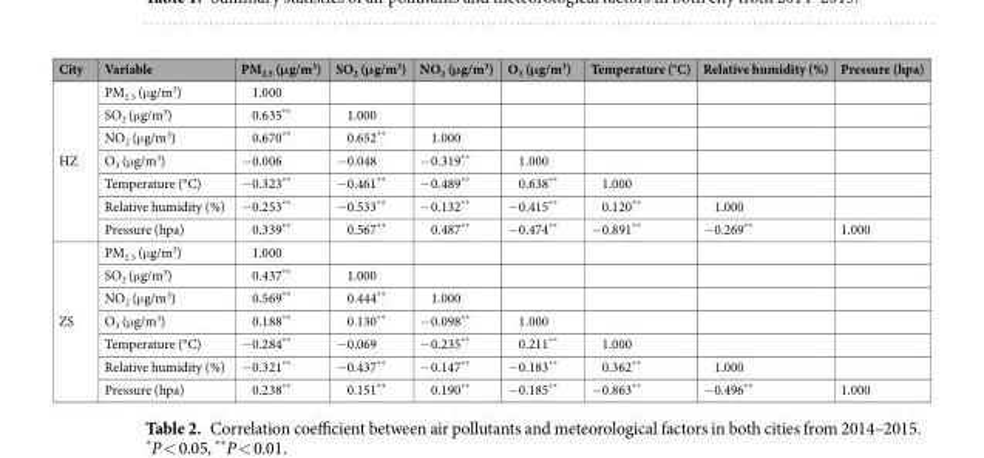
<table><thead><tr><td>City</td><td>Variable</td><td>PM<sub>2.5</sub> (μg/m<sup>3</sup>)</td><td>SO<sub>2</sub> (μg/m<sup>3</sup>)</td><td>NO<sub>2</sub> (μg/m<sup>3</sup>)</td><td>O<sub>3</sub> (μg/m<sup>3</sup>)</td><td>Temperature (°C)</td><td>Relative humidity (%)</td><td>Pressure (hpa)</td></tr></thead><tbody><tr><td rowspan="7">HZ</td><td>PM<sub>2.5</sub> (μg/m<sup>3</sup>)</td><td>1.000</td><td></td><td></td><td></td><td></td><td></td><td></td></tr><tr><td>SO<sub>2</sub> (μg/m<sup>3</sup>)</td><td>0.635**</td><td>1.000</td><td></td><td></td><td></td><td></td><td></td></tr><tr><td>NO<sub>2</sub> (μg/m<sup>3</sup>)</td><td>0.670**</td><td>0.652**</td><td>1.000</td><td></td><td></td><td></td><td></td></tr><tr><td>O<sub>3</sub> (μg/m<sup>3</sup>)</td><td>−0.006</td><td>−0.048</td><td>−0.319**</td><td>1.000</td><td></td><td></td><td></td></tr><tr><td>Temperature (°C)</td><td>−0.323**</td><td>−0.461**</td><td>−0.489**</td><td>0.638**</td><td>1.000</td><td></td><td></td></tr><tr><td>Relative humidity (%)</td><td>−0.253**</td><td>−0.533**</td><td>−0.132**</td><td>−0.415**</td><td>0.120**</td><td>1.000</td><td></td></tr><tr><td>Pressure (hpa)</td><td>0.339**</td><td>0.567**</td><td>0.487**</td><td>−0.474**</td><td>−0.891**</td><td>−0.269**</td><td>1.000</td></tr><tr><td rowspan="7">ZS</td><td>PM<sub>2.5</sub> (μg/m<sup>3</sup>)</td><td>1.000</td><td></td><td></td><td></td><td></td><td></td><td></td></tr><tr><td>SO<sub>2</sub> (μg/m<sup>3</sup>)</td><td>0.437**</td><td>1.000</td><td></td><td></td><td></td><td></td><td></td></tr><tr><td>NO<sub>2</sub> (μg/m<sup>3</sup>)</td><td>0.569**</td><td>0.444**</td><td>1.000</td><td></td><td></td><td></td><td></td></tr><tr><td>O<sub>3</sub> (μg/m<sup>3</sup>)</td><td>0.188**</td><td>0.130**</td><td>−0.098**</td><td>1.000</td><td></td><td></td><td></td></tr><tr><td>Temperature (°C)</td><td>−0.284**</td><td>−0.069</td><td>−0.235**</td><td>0.211**</td><td>1.000</td><td></td><td></td></tr><tr><td>Relative humidity (%)</td><td>−0.321**</td><td>−0.437**</td><td>−0.147**</td><td>−0.183**</td><td>0.362**</td><td>1.000</td><td></td></tr><tr><td>Pressure (hpa)</td><td>0.238**</td><td>0.151**</td><td>0.190**</td><td>−0.185**</td><td>−0.863**</td><td>−0.496**</td><td>1.000</td></tr></tbody></table>